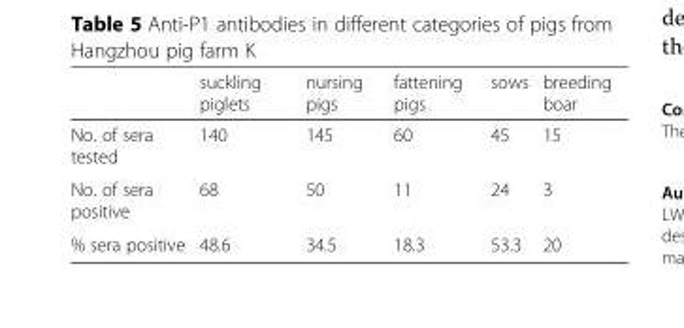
<table><thead><tr><td></td><td>suckling piglets</td><td>nursing pigs</td><td>fattening pigs</td><td>sows</td><td>breeding boar</td></tr></thead><tbody><tr><td>No. of sera tested</td><td>140</td><td>145</td><td>60</td><td>45</td><td>15</td></tr><tr><td>No. of sera positive</td><td>68</td><td>50</td><td>11</td><td>24</td><td>3</td></tr><tr><td>% sera positive</td><td>48.6</td><td>34.5</td><td>18.3</td><td>53.3</td><td>20</td></tr></tbody></table>